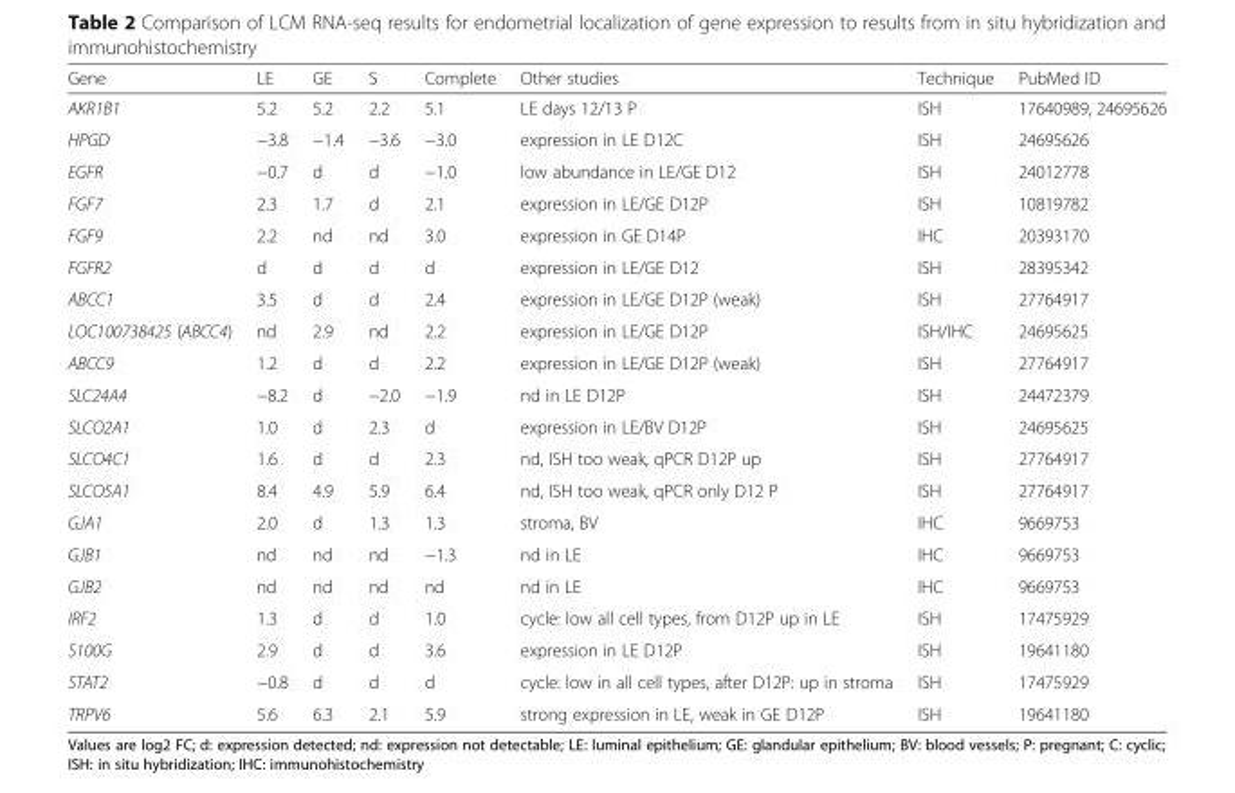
<table><thead><tr><td>Gene</td><td>LE</td><td>GE</td><td>S</td><td>Complete</td><td>Other studies</td><td>Technique</td><td>PubMed ID</td></tr></thead><tbody><tr><td>AKR1B1</td><td>5.2</td><td>5.2</td><td>2.2</td><td>5.1</td><td>LE days 12/13 P</td><td>ISH</td><td>17640989, 24695626</td></tr><tr><td>HPGD</td><td>−3.8</td><td>−1.4</td><td>−3.6</td><td>−3.0</td><td>expression in LE D12C</td><td>ISH</td><td>24695626</td></tr><tr><td>EGFR</td><td>−0.7</td><td>d</td><td>d</td><td>−1.0</td><td>low abundance in LE/GE D12</td><td>ISH</td><td>24012778</td></tr><tr><td>FGF7</td><td>2.3</td><td>1.7</td><td>d</td><td>2.1</td><td>expression in LE/GE D12P</td><td>ISH</td><td>10819782</td></tr><tr><td>FGF9</td><td>2.2</td><td>nd</td><td>nd</td><td>3.0</td><td>expression in GE D14P</td><td>IHC</td><td>20393170</td></tr><tr><td>FGFR2</td><td>d</td><td>d</td><td>d</td><td>d</td><td>expression in LE/GE D12</td><td>ISH</td><td>28395342</td></tr><tr><td>ABCC1</td><td>3.5</td><td>d</td><td>d</td><td>2.4</td><td>expression in LE/GE D12P (weak)</td><td>ISH</td><td>27764917</td></tr><tr><td>LOC100738425 (ABCC4)</td><td>nd</td><td>2.9</td><td>nd</td><td>2.2</td><td>expression in LE/GE D12P</td><td>ISH/IHC</td><td>24695625</td></tr><tr><td>ABCC9</td><td>1.2</td><td>d</td><td>d</td><td>2.2</td><td>expression in LE/GE D12P (weak)</td><td>ISH</td><td>27764917</td></tr><tr><td>SLC24A4</td><td>−8.2</td><td>d</td><td>−2.0</td><td>−1.9</td><td>nd in LE D12P</td><td>ISH</td><td>24472379</td></tr><tr><td>SLCO2A1</td><td>1.0</td><td>d</td><td>2.3</td><td>d</td><td>expression in LE/BV D12P</td><td>ISH</td><td>24695625</td></tr><tr><td>SLCO4C1</td><td>1.6</td><td>d</td><td>d</td><td>2.3</td><td>nd, ISH too weak, qPCR D12P up</td><td>ISH</td><td>27764917</td></tr><tr><td>SLCO5A1</td><td>8.4</td><td>4.9</td><td>5.9</td><td>6.4</td><td>nd, ISH too weak, qPCR only D12 P</td><td>ISH</td><td>27764917</td></tr><tr><td>GJA1</td><td>2.0</td><td>d</td><td>1.3</td><td>1.3</td><td>stroma, BV</td><td>IHC</td><td>9669753</td></tr><tr><td>GJB1</td><td>nd</td><td>nd</td><td>nd</td><td>−1.3</td><td>nd in LE</td><td>IHC</td><td>9669753</td></tr><tr><td>GJB2</td><td>nd</td><td>nd</td><td>nd</td><td>nd</td><td>nd in LE</td><td>IHC</td><td>9669753</td></tr><tr><td>IRF2</td><td>1.3</td><td>d</td><td>d</td><td>1.0</td><td>cycle: low all cell types, from D12P up in LE</td><td>ISH</td><td>17475929</td></tr><tr><td>S100G</td><td>2.9</td><td>d</td><td>d</td><td>3.6</td><td>expression in LE D12P</td><td>ISH</td><td>19641180</td></tr><tr><td>STAT2</td><td>−0.8</td><td>d</td><td>d</td><td>d</td><td>cycle: low in all cell types, after D12P: up in stroma</td><td>ISH</td><td>17475929</td></tr><tr><td>TRPV6</td><td>5.6</td><td>6.3</td><td>2.1</td><td>5.9</td><td>strong expression in LE, weak in GE D12P</td><td>ISH</td><td>19641180</td></tr></tbody></table>